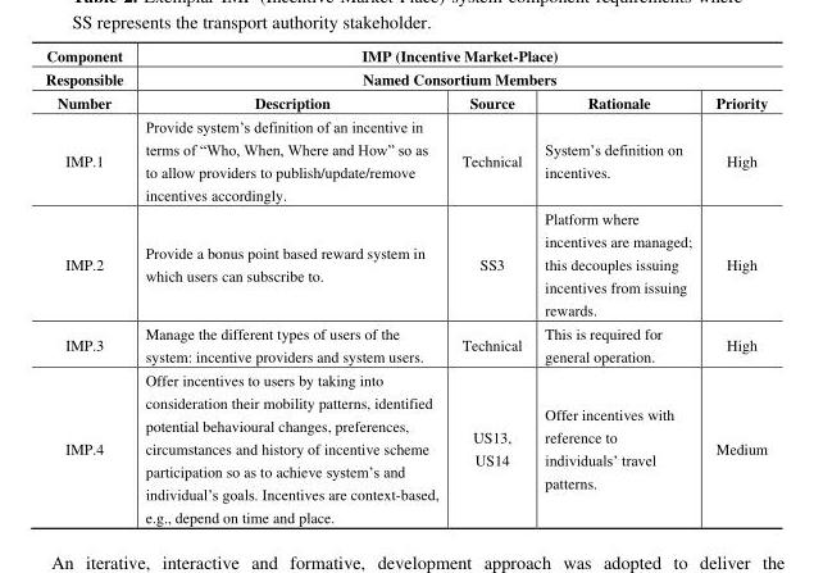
<table><thead><tr><td rowspan="3">Component Responsible Number</td><td rowspan="2" colspan="4">IMP (Incentive Market-Place) Named Consortium Members</td></tr><tr></tr><tr><td>Description</td><td>Source</td><td>Rationale</td><td>Priority</td></tr></thead><tbody><tr><td>IMP.1</td><td>Provide system’s definition of an incentive in terms of “Who, When, Where and How” so as to allow providers to publish/update/remove incentives accordingly.</td><td>Technical</td><td>System’s definition on incentives.</td><td>High</td></tr><tr><td>IMP.2</td><td>Provide a bonus point based reward system in which users can subscribe to.</td><td>SS3</td><td>Platform where incentives are managed; this decouples issuing incentives from issuing rewards.</td><td>High</td></tr><tr><td>IMP.3</td><td>Manage the different types of users of the system: incentive providers and system users.</td><td>Technical</td><td>This is required for general operation.</td><td>High</td></tr><tr><td>IMP.4</td><td>Offer incentives to users by taking into consideration their mobility patterns, identified potential behavioural changes, preferences, circumstances and history of incentive scheme participation so as to achieve system’s and individual’s goals. Incentives are context-based, e.g., depend on time and place.</td><td>US13, US14</td><td>Offer incentives with reference to individuals’ travel patterns.</td><td>Medium</td></tr></tbody></table>